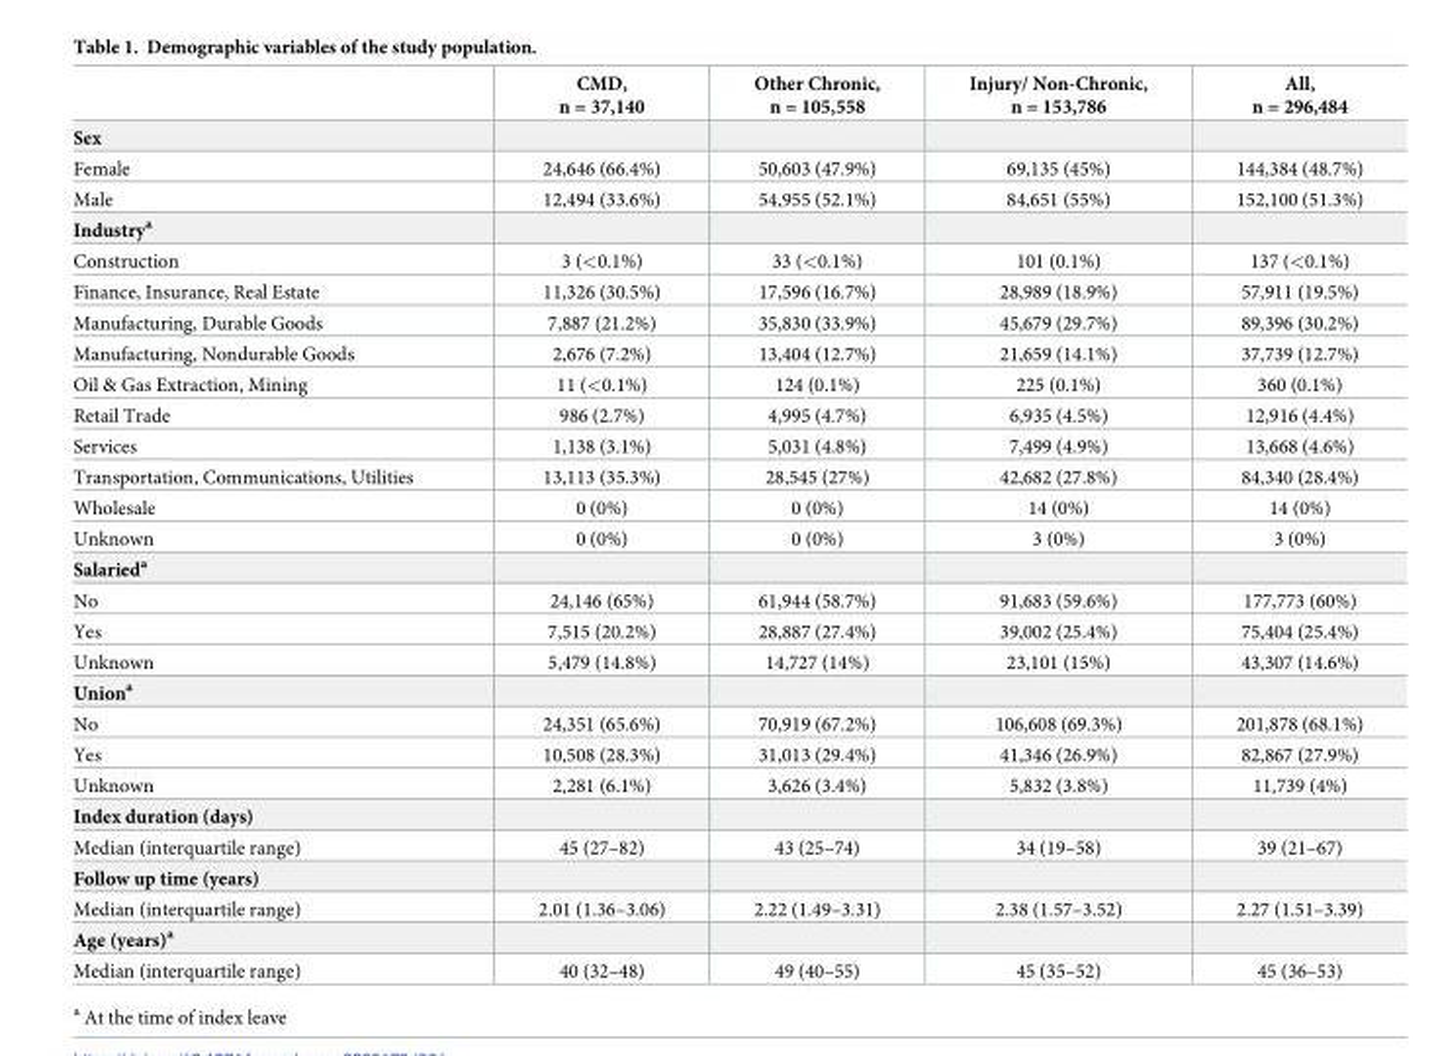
<table><thead><tr><td></td><td>CMD, n = 37,140</td><td>Other Chronic, n = 105,558</td><td>Injury/ Non-Chronic, n = 153,786</td><td>All, n = 296,484</td></tr></thead><tbody><tr><td colspan="5">Sex</td></tr><tr><td>Female</td><td>24,646 (66.4%)</td><td>50,603 (47.9%)</td><td>69,135 (45%)</td><td>144,384 (48.7%)</td></tr><tr><td>Male</td><td>12,494 (33.6%)</td><td>54,955 (52.1%)</td><td>84,651 (55%)</td><td>152,100 (51.3%)</td></tr><tr><td colspan="5">Industry<sup>a</sup></td></tr><tr><td>Construction</td><td>3 (&lt;0.1%)</td><td>33 (&lt;0.1%)</td><td>101 (0.1%)</td><td>137 (&lt;0.1%)</td></tr><tr><td>Finance, Insurance, Real Estate</td><td>11,326 (30.5%)</td><td>17,596 (16.7%)</td><td>28,989 (18.9%)</td><td>57,911 (19.5%)</td></tr><tr><td>Manufacturing, Durable Goods</td><td>7,887 (21.2%)</td><td>35,830 (33.9%)</td><td>45,679 (29.7%)</td><td>89,396 (30.2%)</td></tr><tr><td>Manufacturing, Nondurable Goods</td><td>2,676 (7.2%)</td><td>13,404 (12.7%)</td><td>21,659 (14.1%)</td><td>37,739 (12.7%)</td></tr><tr><td>Oil &amp; Gas Extraction, Mining</td><td>11 (&lt;0.1%)</td><td>124 (0.1%)</td><td>225 (0.1%)</td><td>360 (0.1%)</td></tr><tr><td>Retail Trade</td><td>986 (2.7%)</td><td>4,995 (4.7%)</td><td>6,935 (4.5%)</td><td>12,916 (4.4%)</td></tr><tr><td>Services</td><td>1,138 (3.1%)</td><td>5,031 (4.8%)</td><td>7,499 (4.9%)</td><td>13,668 (4.6%)</td></tr><tr><td>Transportation, Communications, Utilities</td><td>13,113 (35.3%)</td><td>28,545 (27%)</td><td>42,682 (27.8%)</td><td>84,340 (28.4%)</td></tr><tr><td>Wholesale</td><td>0 (0%)</td><td>0 (0%)</td><td>14 (0%)</td><td>14 (0%)</td></tr><tr><td>Unknown</td><td>0 (0%)</td><td>0 (0%)</td><td>3 (0%)</td><td>3 (0%)</td></tr><tr><td colspan="5">Salaried<sup>a</sup></td></tr><tr><td>No</td><td>24,146 (65%)</td><td>61,944 (58.7%)</td><td>91,683 (59.6%)</td><td>177,773 (60%)</td></tr><tr><td>Yes</td><td>7,515 (20.2%)</td><td>28,887 (27.4%)</td><td>39,002 (25.4%)</td><td>75,404 (25.4%)</td></tr><tr><td>Unknown</td><td>5,479 (14.8%)</td><td>14,727 (14%)</td><td>23,101 (15%)</td><td>43,307 (14.6%)</td></tr><tr><td colspan="5">Union<sup>a</sup></td></tr><tr><td>No</td><td>24,351 (65.6%)</td><td>70,919 (67.2%)</td><td>106,608 (69.3%)</td><td>201,878 (68.1%)</td></tr><tr><td>Yes</td><td>10,508 (28.3%)</td><td>31,013 (29.4%)</td><td>41,346 (26.9%)</td><td>82,867 (27.9%)</td></tr><tr><td>Unknown</td><td>2,281 (6.1%)</td><td>3,626 (3.4%)</td><td>5,832 (3.8%)</td><td>11,739 (4%)</td></tr><tr><td colspan="5">Index duration (days)</td></tr><tr><td>Median (interquartile range)</td><td>45 (27–82)</td><td>43 (25–74)</td><td>34 (19–58)</td><td>39 (21–67)</td></tr><tr><td colspan="5">Follow up time (years)</td></tr><tr><td>Median (interquartile range)</td><td>2.01 (1.36–3.06)</td><td>2.22 (1.49–3.31)</td><td>2.38 (1.57–3.52)</td><td>2.27 (1.51–3.39)</td></tr><tr><td colspan="5">Age (years)<sup>a</sup></td></tr><tr><td>Median (interquartile range)</td><td>40 (32–48)</td><td>49 (40–55)</td><td>45 (35–52)</td><td>45 (36–53)</td></tr></tbody></table>